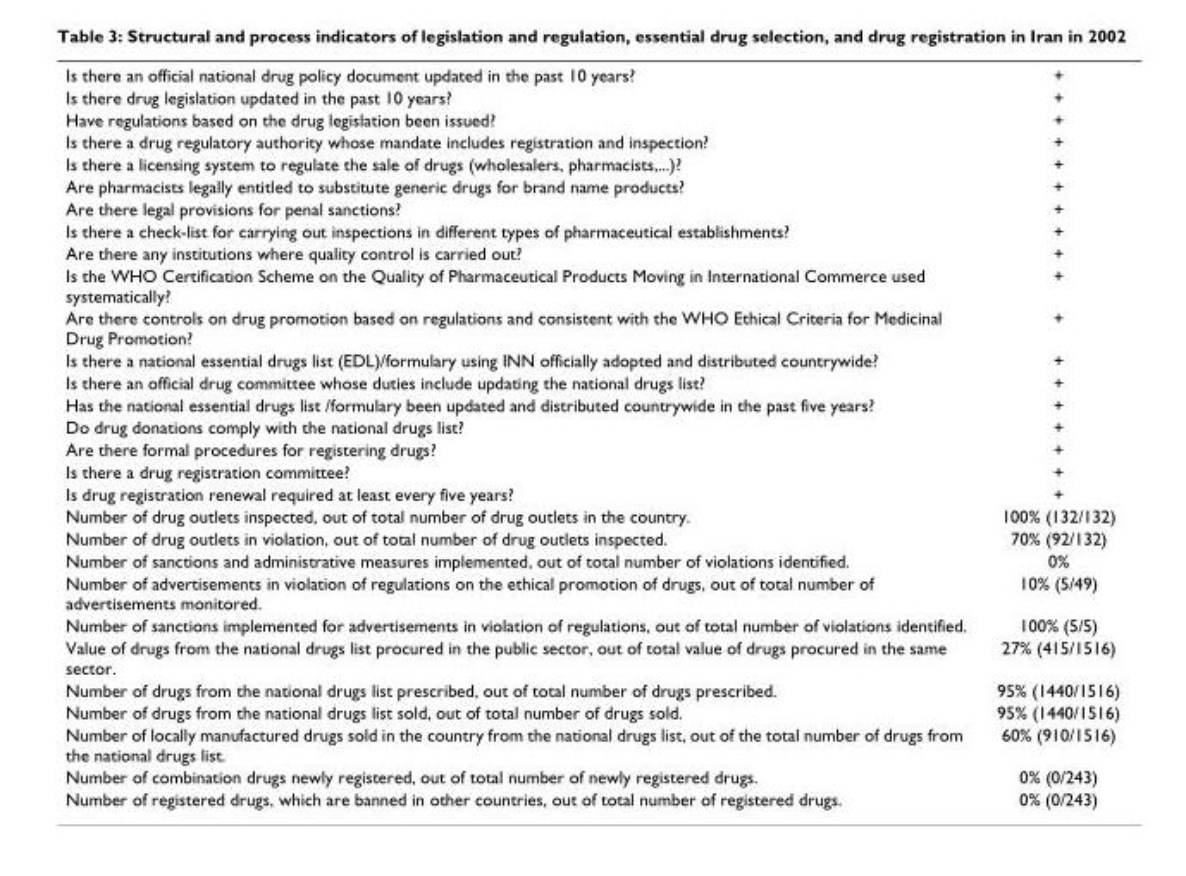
<table><tbody><tr><td>Is there an official national drug policy document updated in the past 10 years?</td><td>+</td></tr><tr><td>Is there drug legislation updated in the past 10 years?</td><td>+</td></tr><tr><td>Have regulations based on the drug legislation been issued?</td><td>+</td></tr><tr><td>Is there a drug regulatory authority whose mandate includes registration and inspection?</td><td>+</td></tr><tr><td>Is there a licensing system to regulate the sale of drugs (wholesalers, pharmacists,...)?</td><td>+</td></tr><tr><td>Are pharmacists legally entitled to substitute generic drugs for brand name products?</td><td>+</td></tr><tr><td>Are there legal provisions for penal sanctions?</td><td>+</td></tr><tr><td>Is there a check-list for carrying out inspections in different types of pharmaceutical establishments?</td><td>+</td></tr><tr><td>Are there any institutions where quality control is carried out?</td><td>+</td></tr><tr><td>Is the WHO Certification Scheme on the Quality of Pharmaceutical Products Moving in International Commerce used systematically?</td><td>+</td></tr><tr><td>Are there controls on drug promotion based on regulations and consistent with the WHO Ethical Criteria for Medicinal Drug Promotion?</td><td>+</td></tr><tr><td>Is there a national essential drugs list (EDL)/formulary using INN officially adopted and distributed countrywide?</td><td>+</td></tr><tr><td>Is there an official drug committee whose duties include updating the national drugs list?</td><td>+</td></tr><tr><td>Has the national essential drugs list /formulary been updated and distributed countrywide in the past five years?</td><td>+</td></tr><tr><td>Do drug donations comply with the national drugs list?</td><td>+</td></tr><tr><td>Are there formal procedures for registering drugs?</td><td>+</td></tr><tr><td>Is there a drug registration committee?</td><td>+</td></tr><tr><td>Is drug registration renewal required at least every five years?</td><td>+</td></tr><tr><td>Number of drug outlets inspected, out of total number of drug outlets in the country.</td><td>100% (132/132)</td></tr><tr><td>Number of drug outlets in violation, out of total number of drug outlets inspected.</td><td>70% (92/132)</td></tr><tr><td>Number of sanctions and administrative measures implemented, out of total number of violations identified.</td><td>0%</td></tr><tr><td>Number of advertisements in violation of regulations on the ethical promotion of drugs, out of total number of advertisements monitored.</td><td>10% (5/49)</td></tr><tr><td>Number of sanctions implemented for advertisements in violation of regulations, out of total number of violations identified.</td><td>100% (5/5)</td></tr><tr><td>Value of drugs from the national drugs list procured in the public sector, out of total value of drugs procured in the same sector.</td><td>27% (415/1516)</td></tr><tr><td>Number of drugs from the national drugs list prescribed, out of total number of drugs prescribed.</td><td>95% (1440/1516)</td></tr><tr><td>Number of drugs from the national drugs list sold, out of total number of drugs sold.</td><td>95% (1440/1516)</td></tr><tr><td>Number of locally manufactured drugs sold in the country from the national drugs list, out of the total number of drugs from the national drugs list.</td><td>60% (910/1516)</td></tr><tr><td>Number of combination drugs newly registered, out of total number of newly registered drugs.</td><td>0% (0/243)</td></tr><tr><td>Number of registered drugs, which are banned in other countries, out of total number of registered drugs.</td><td>0% (0/243)</td></tr></tbody></table>